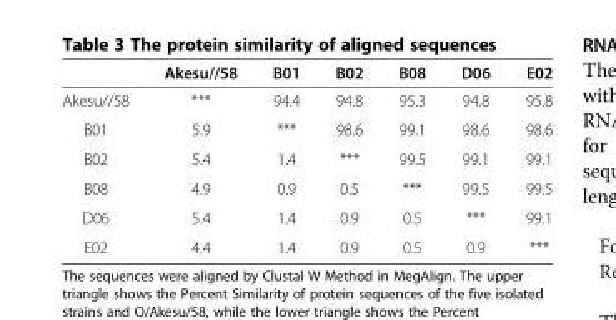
<table><thead><tr><td></td><td>Akesu//58</td><td>B01</td><td>B02</td><td>B08</td><td>D06</td><td>E02</td></tr></thead><tbody><tr><td>Akesu//58</td><td>***</td><td>94.4</td><td>94.8</td><td>95.3</td><td>94.8</td><td>95.8</td></tr><tr><td>B01</td><td>5.9</td><td>***</td><td>98.6</td><td>99.1</td><td>98.6</td><td>98.6</td></tr><tr><td>B02</td><td>5.4</td><td>1.4</td><td>***</td><td>99.5</td><td>99.1</td><td>99.1</td></tr><tr><td>B08</td><td>4.9</td><td>0.9</td><td>0.5</td><td>***</td><td>99.5</td><td>99.5</td></tr><tr><td>D06</td><td>5.4</td><td>1.4</td><td>0.9</td><td>0.5</td><td>***</td><td>99.1</td></tr><tr><td>E02</td><td>4.4</td><td>1.4</td><td>0.9</td><td>0.5</td><td>0.9</td><td>***</td></tr></tbody></table>